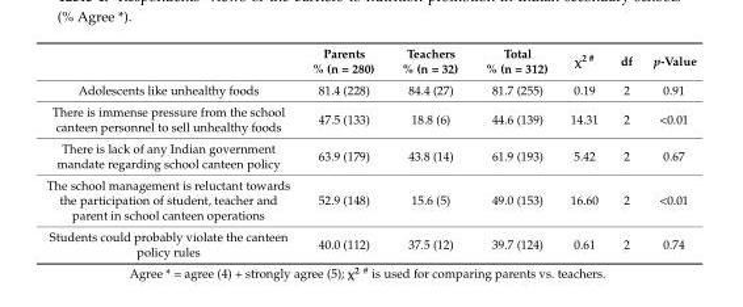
<table><thead><tr><td></td><td>Parents % (n = 280)</td><td>Teachers % (n = 32)</td><td>Total % (n = 312)</td><td>χ<sup>2 #</sup></td><td>df</td><td>p-Value</td></tr></thead><tbody><tr><td>Adolescents like unhealthy foods</td><td>81.4 (228)</td><td>84.4 (27)</td><td>81.7 (255)</td><td>0.19</td><td>2</td><td>0.91</td></tr><tr><td>There is immense pressure from the school canteen personnel to sell unhealthy foods</td><td>47.5 (133)</td><td>18.8 (6)</td><td>44.6 (139)</td><td>14.31</td><td>2</td><td>&lt;0.01</td></tr><tr><td>There is lack of any Indian government mandate regarding school canteen policy</td><td>63.9 (179)</td><td>43.8 (14)</td><td>61.9 (193)</td><td>5.42</td><td>2</td><td>0.67</td></tr><tr><td>The school management is reluctant towards the participation of student, teacher and parent in school canteen operations</td><td>52.9 (148)</td><td>15.6 (5)</td><td>49.0 (153)</td><td>16.60</td><td>2</td><td>&lt;0.01</td></tr><tr><td>Students could probably violate the canteen policy rules</td><td>40.0 (112)</td><td>37.5 (12)</td><td>39.7 (124)</td><td>0.61</td><td>2</td><td>0.74</td></tr></tbody></table>